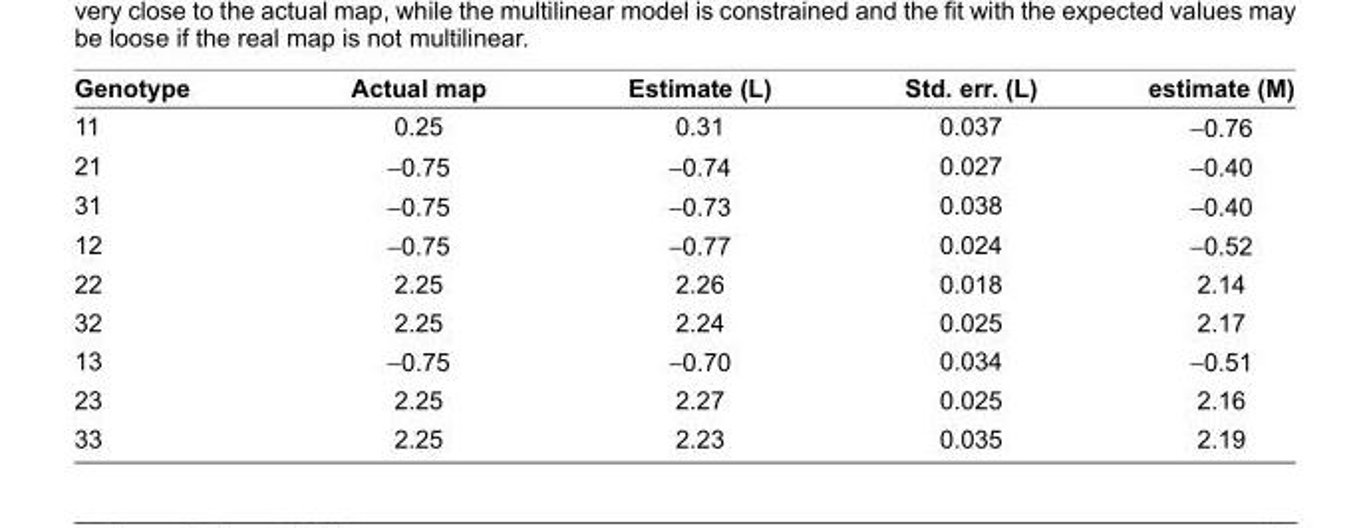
<table><thead><tr><td>Genotype</td><td>Actual map</td><td>Estimate (L)</td><td>Std. err. (L)</td><td>estimate (M)</td></tr></thead><tbody><tr><td>11</td><td>0.25</td><td>0.31</td><td>0.037</td><td>−0.76</td></tr><tr><td>21</td><td>−0.75</td><td>−0.74</td><td>0.027</td><td>−0.40</td></tr><tr><td>31</td><td>−0.75</td><td>−0.73</td><td>0.038</td><td>−0.40</td></tr><tr><td>12</td><td>−0.75</td><td>−0.77</td><td>0.024</td><td>−0.52</td></tr><tr><td>22</td><td>2.25</td><td>2.26</td><td>0.018</td><td>2.14</td></tr><tr><td>32</td><td>2.25</td><td>2.24</td><td>0.025</td><td>2.17</td></tr><tr><td>13</td><td>−0.75</td><td>−0.70</td><td>0.034</td><td>−0.51</td></tr><tr><td>23</td><td>2.25</td><td>2.27</td><td>0.025</td><td>2.16</td></tr><tr><td>33</td><td>2.25</td><td>2.23</td><td>0.035</td><td>2.19</td></tr></tbody></table>